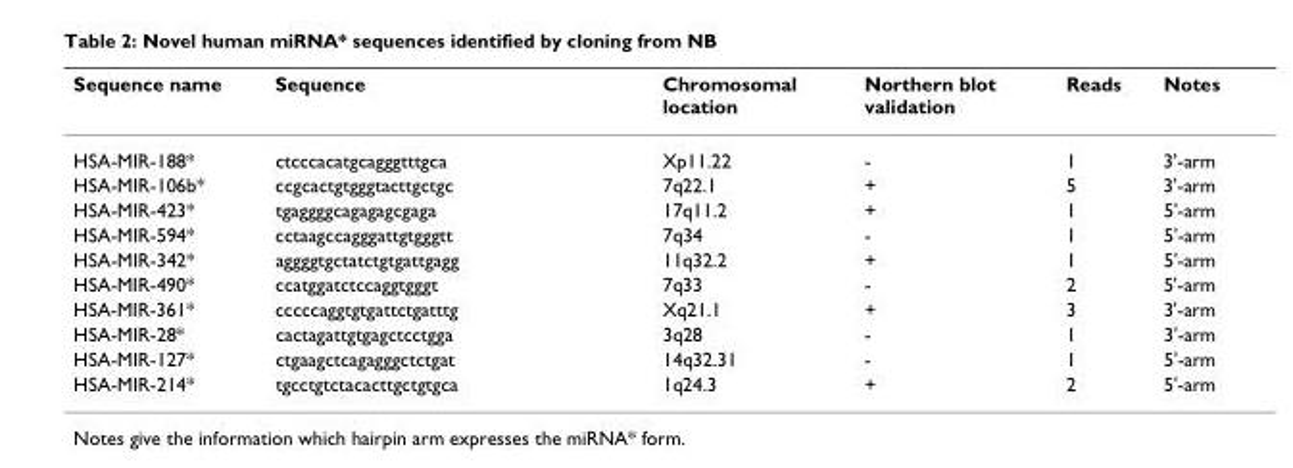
<table><thead><tr><td>Sequence name</td><td>Sequence</td><td>Chromosomal location</td><td>Northern blot validation</td><td>Reads</td><td>Notes</td></tr></thead><tbody><tr><td>HSA-MIR-188*</td><td>ctcccacatgcagggtttgca</td><td>Xp11.22</td><td>-</td><td>1</td><td>3&#x27;-arm</td></tr><tr><td>HSA-MIR-106b*</td><td>ccgcactgtgggtacttgctgc</td><td>7q22.1</td><td>+</td><td>5</td><td>3&#x27;-arm</td></tr><tr><td>HSA-MIR-423*</td><td>tgaggggcagagagcgaga</td><td>17q11.2</td><td>+</td><td>1</td><td>5&#x27;-arm</td></tr><tr><td>HSA-MIR-594*</td><td>cctaagccagggattgtgggtt</td><td>7q34</td><td>-</td><td>1</td><td>5&#x27;-arm</td></tr><tr><td>HSA-MIR-342*</td><td>aggggtgctatctgtgattgagg</td><td>11q32.2</td><td>+</td><td>1</td><td>5&#x27;-arm</td></tr><tr><td>HSA-MIR-490*</td><td>ccatggatctccaggtgggt</td><td>7q33</td><td>-</td><td>2</td><td>5&#x27;-arm</td></tr><tr><td>HSA-MIR-361*</td><td>cccccaggtgtgattctgatttg</td><td>Xq21.1</td><td>+</td><td>3</td><td>3&#x27;-arm</td></tr><tr><td>HSA-MIR-28*</td><td>cactagattgtgagctcctgga</td><td>3q28</td><td>-</td><td>1</td><td>3&#x27;-arm</td></tr><tr><td>HSA-MIR-127*</td><td>ctgaagctcagagggctctgat</td><td>14q32.31</td><td>-</td><td>1</td><td>5&#x27;-arm</td></tr><tr><td>HSA-MIR-214*</td><td>tgcctgtctacacttgctgtgca</td><td>1q24.3</td><td>+</td><td>2</td><td>5&#x27;-arm</td></tr></tbody></table>